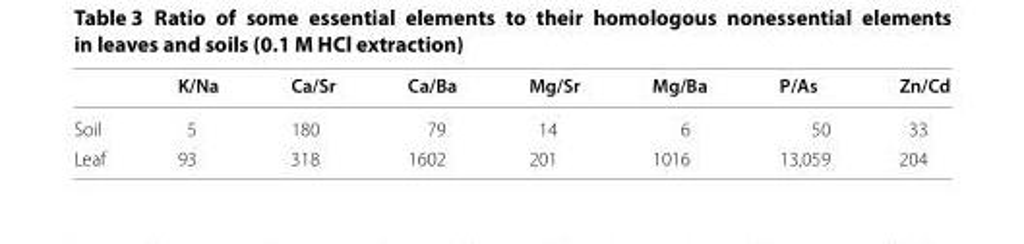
<table><thead><tr><td></td><td>K/Na</td><td>Ca/Sr</td><td>Ca/Ba</td><td>Mg/Sr</td><td>Mg/Ba</td><td>P/As</td><td>Zn/Cd</td></tr></thead><tbody><tr><td>Soil</td><td>5</td><td>180</td><td>79</td><td>14</td><td>6</td><td>50</td><td>33</td></tr><tr><td>Leaf</td><td>93</td><td>318</td><td>1602</td><td>201</td><td>1016</td><td>13,059</td><td>204</td></tr></tbody></table>